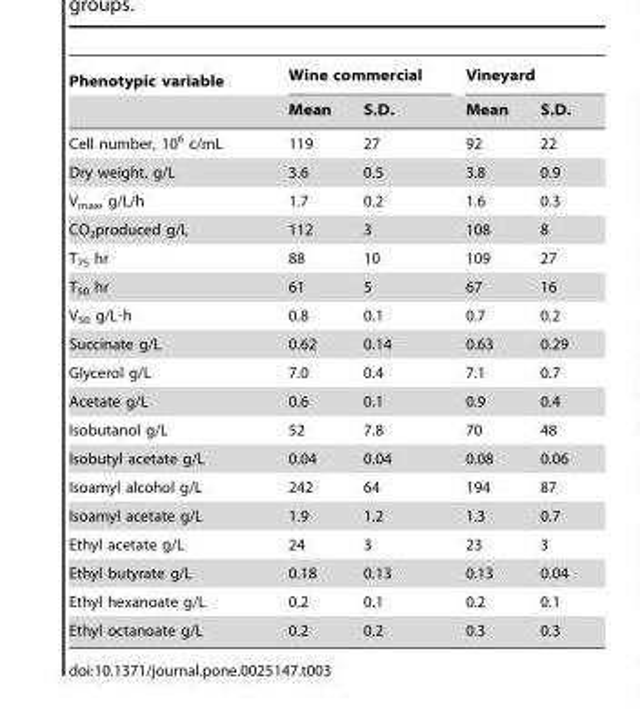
<table><thead><tr><td rowspan="2">Phenotypic variable</td><td colspan="2">Wine commercial</td><td colspan="2">Vineyard</td></tr><tr><td>Mean</td><td>S.D.</td><td>Mean</td><td>S.D.</td></tr></thead><tbody><tr><td>Cell number, 10<sup>6</sup> c/mL</td><td>119</td><td>27</td><td>92</td><td>22</td></tr><tr><td>Dry weight, g/L</td><td>3.6</td><td>0.5</td><td>3.8</td><td>0.9</td></tr><tr><td>V<sub>max</sub>, g/L/h</td><td>1.7</td><td>0.2</td><td>1.6</td><td>0.3</td></tr><tr><td>CO<sub>2</sub>produced g/L</td><td>112</td><td>3</td><td>108</td><td>8</td></tr><tr><td>T<sub>75</sub> hr</td><td>88</td><td>10</td><td>109</td><td>27</td></tr><tr><td>T<sub>50</sub> hr</td><td>61</td><td>5</td><td>67</td><td>16</td></tr><tr><td>V<sub>50</sub> g/L·h</td><td>0.8</td><td>0.1</td><td>0.7</td><td>0.2</td></tr><tr><td>Succinate g/L</td><td>0.62</td><td>0.14</td><td>0.63</td><td>0.29</td></tr><tr><td>Glycerol g/L</td><td>7.0</td><td>0.4</td><td>7.1</td><td>0.7</td></tr><tr><td>Acetate g/L</td><td>0.6</td><td>0.1</td><td>0.9</td><td>0.4</td></tr><tr><td>Isobutanol g/L</td><td>52</td><td>7.8</td><td>70</td><td>48</td></tr><tr><td>Isobutyl acetate g/L</td><td>0.04</td><td>0.04</td><td>0.08</td><td>0.06</td></tr><tr><td>Isoamyl alcohol g/L</td><td>242</td><td>64</td><td>194</td><td>87</td></tr><tr><td>Isoamyl acetate g/L</td><td>1.9</td><td>1.2</td><td>1.3</td><td>0.7</td></tr><tr><td>Ethyl acetate g/L</td><td>24</td><td>3</td><td>23</td><td>3</td></tr><tr><td>Ethyl butyrate g/L</td><td>0.18</td><td>0.13</td><td>0.13</td><td>0.04</td></tr><tr><td>Ethyl hexanoate g/L</td><td>0.2</td><td>0.1</td><td>0.2</td><td>0.1</td></tr><tr><td>Ethyl octanoate g/L</td><td>0.2</td><td>0.2</td><td>0.3</td><td>0.3</td></tr></tbody></table>